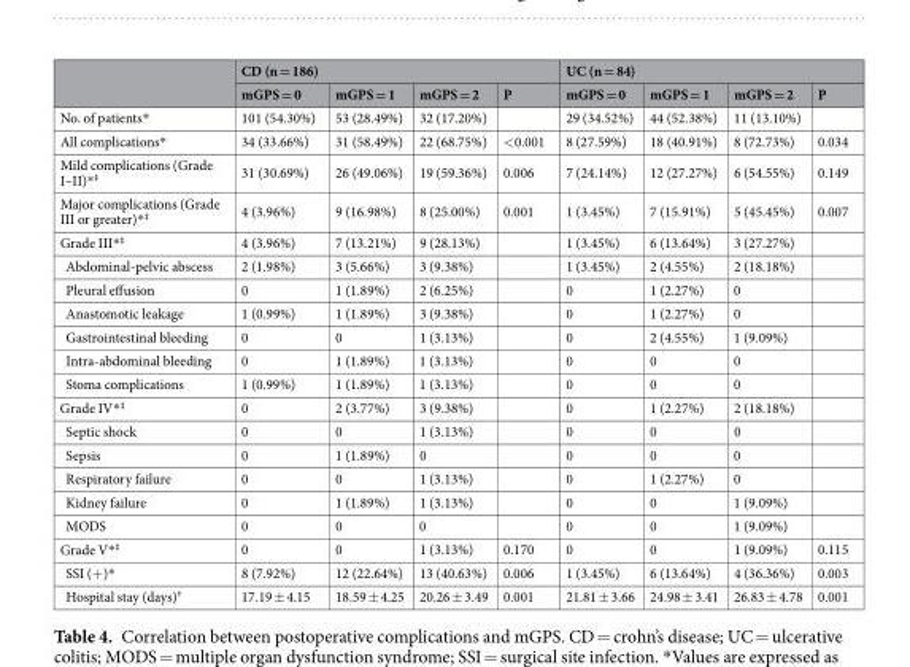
<table><thead><tr><td rowspan="2"></td><td colspan="4">CD (n = 186)</td><td colspan="4">UC (n = 84)</td></tr><tr><td>mGPS = 0</td><td>mGPS = 1</td><td>mGPS = 2</td><td>P</td><td>mGPS = 0</td><td>mGPS = 1</td><td>mGPS = 2</td><td>P</td></tr></thead><tbody><tr><td>No. of patients*</td><td>101 (54.30%)</td><td>53 (28.49%)</td><td>32 (17.20%)</td><td></td><td>29 (34.52%)</td><td>44 (52.38%)</td><td>11 (13.10%)</td><td></td></tr><tr><td>All complications*</td><td>34 (33.66%)</td><td>31 (58.49%)</td><td>22 (68.75%)</td><td>&lt;0.001</td><td>8 (27.59%)</td><td>18 (40.91%)</td><td>8 (72.73%)</td><td>0.034</td></tr><tr><td>Mild complications (Grade I–II)*<sup>‡</sup></td><td>31 (30.69%)</td><td>26 (49.06%)</td><td>19 (59.36%)</td><td>0.006</td><td>7 (24.14%)</td><td>12 (27.27%)</td><td>6 (54.55%)</td><td>0.149</td></tr><tr><td>Major complications (Grade III or greater)*<sup>‡</sup></td><td>4 (3.96%)</td><td>9 (16.98%)</td><td>8 (25.00%)</td><td>0.001</td><td>1 (3.45%)</td><td>7 (15.91%)</td><td>5 (45.45%)</td><td>0.007</td></tr><tr><td>Grade III*<sup>‡</sup></td><td>4 (3.96%)</td><td>7 (13.21%)</td><td>9 (28.13%)</td><td></td><td>1 (3.45%)</td><td>6 (13.64%)</td><td>3 (27.27%)</td><td></td></tr><tr><td>Abdominal-pelvic abscess</td><td>2 (1.98%)</td><td>3 (5.66%)</td><td>3 (9.38%)</td><td></td><td>1 (3.45%)</td><td>2 (4.55%)</td><td>2 (18.18%)</td><td></td></tr><tr><td>Pleural effusion</td><td>0</td><td>1 (1.89%)</td><td>2 (6.25%)</td><td></td><td>0</td><td>1 (2.27%)</td><td>0</td><td></td></tr><tr><td>Anastomotic leakage</td><td>1 (0.99%)</td><td>1 (1.89%)</td><td>3 (9.38%)</td><td></td><td>0</td><td>1 (2.27%)</td><td>0</td><td></td></tr><tr><td>Gastrointestinal bleeding</td><td>0</td><td>0</td><td>1 (3.13%)</td><td></td><td>0</td><td>2 (4.55%)</td><td>1 (9.09%)</td><td></td></tr><tr><td>Intra-abdominal bleeding</td><td>0</td><td>1 (1.89%)</td><td>1 (3.13%)</td><td></td><td>0</td><td>0</td><td>0</td><td></td></tr><tr><td>Stoma complications</td><td>1 (0.99%)</td><td>1 (1.89%)</td><td>1 (3.13%)</td><td></td><td>0</td><td>0</td><td>0</td><td></td></tr><tr><td>Grade IV*<sup>‡</sup></td><td>0</td><td>2 (3.77%)</td><td>3 (9.38%)</td><td></td><td>0</td><td>1 (2.27%)</td><td>2 (18.18%)</td><td></td></tr><tr><td>Septic shock</td><td>0</td><td>0</td><td>1 (3.13%)</td><td></td><td>0</td><td>0</td><td>0</td><td></td></tr><tr><td>Sepsis</td><td>0</td><td>1 (1.89%)</td><td>0</td><td></td><td>0</td><td>0</td><td>0</td><td></td></tr><tr><td>Respiratory failure</td><td>0</td><td>0</td><td>1 (3.13%)</td><td></td><td>0</td><td>1 (2.27%)</td><td>0</td><td></td></tr><tr><td>Kidney failure</td><td>0</td><td>1 (1.89%)</td><td>1 (3.13%)</td><td></td><td>0</td><td>0</td><td>1 (9.09%)</td><td></td></tr><tr><td>MODS</td><td>0</td><td>0</td><td>0</td><td></td><td>0</td><td>0</td><td>1 (9.09%)</td><td></td></tr><tr><td>Grade V*<sup>‡</sup></td><td>0</td><td>0</td><td>1 (3.13%)</td><td>0.170</td><td>0</td><td>0</td><td>1 (9.09%)</td><td>0.115</td></tr><tr><td>SSI (+)*</td><td>8 (7.92%)</td><td>12 (22.64%)</td><td>13 (40.63%)</td><td>0.006</td><td>1 (3.45%)</td><td>6 (13.64%)</td><td>4 (36.36%)</td><td>0.003</td></tr><tr><td>Hospital stay (days)<sup>†</sup></td><td>17.19 ± 4.15</td><td>18.59 ± 4.25</td><td>20.26 ± 3.49</td><td>0.001</td><td>21.81 ± 3.66</td><td>24.98 ± 3.41</td><td>26.83 ± 4.78</td><td>0.001</td></tr></tbody></table>